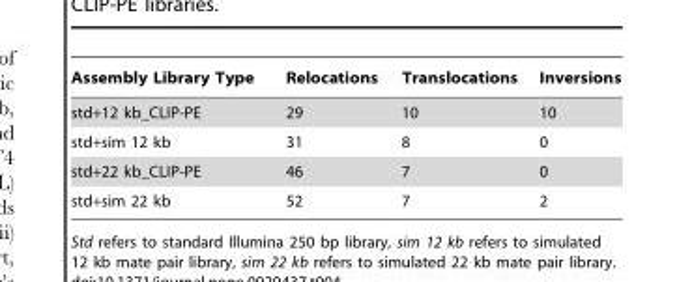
<table><thead><tr><td>Assembly Library Type</td><td>Relocations</td><td>Translocations</td><td>Inversions</td></tr></thead><tbody><tr><td>std+12 kb_CLIP-PE</td><td>29</td><td>10</td><td>10</td></tr><tr><td>std+sim 12 kb</td><td>31</td><td>8</td><td>0</td></tr><tr><td>std+22 kb_CLIP-PE</td><td>46</td><td>7</td><td>0</td></tr><tr><td>std+sim 22 kb</td><td>52</td><td>7</td><td>2</td></tr></tbody></table>